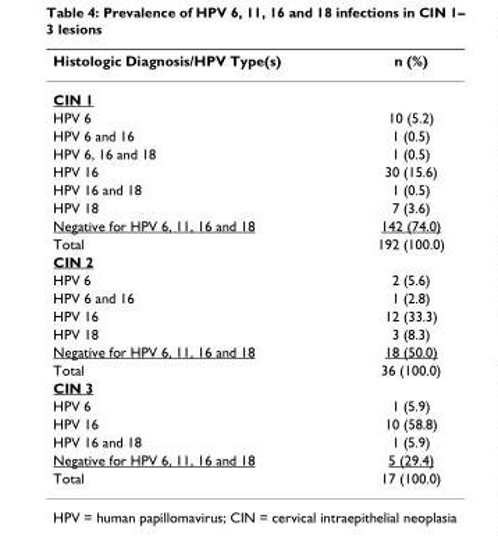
<table><thead><tr><td>Histologic Diagnosis/HPV Type(s)</td><td>n (%)</td></tr></thead><tbody><tr><td colspan="2">CIN 1</td></tr><tr><td>HPV 6</td><td>10 (5.2)</td></tr><tr><td>HPV 6 and 16</td><td>1 (0.5)</td></tr><tr><td>HPV 6, 16 and 18</td><td>1 (0.5)</td></tr><tr><td>HPV 16</td><td>30 (15.6)</td></tr><tr><td>HPV 16 and 18</td><td>1 (0.5)</td></tr><tr><td>HPV 18</td><td>7 (3.6)</td></tr><tr><td>Negative for HPV 6, 11, 16 and 18</td><td>142 (74.0)</td></tr><tr><td>Total</td><td>192 (100.0)</td></tr><tr><td colspan="2">CIN 2</td></tr><tr><td>HPV 6</td><td>2 (5.6)</td></tr><tr><td>HPV 6 and 16</td><td>1 (2.8)</td></tr><tr><td>HPV 16</td><td>12 (33.3)</td></tr><tr><td>HPV 18</td><td>3 (8.3)</td></tr><tr><td>Negative for HPV 6, 11, 16 and 18</td><td>18 (50.0)</td></tr><tr><td>Total</td><td>36 (100.0)</td></tr><tr><td colspan="2">CIN 3</td></tr><tr><td>HPV 6</td><td>1 (5.9)</td></tr><tr><td>HPV 16</td><td>10 (58.8)</td></tr><tr><td>HPV 16 and 18</td><td>1 (5.9)</td></tr><tr><td>Negative for HPV 6, 11, 16 and 18</td><td>5 (29.4)</td></tr><tr><td>Total</td><td>17 (100.0)</td></tr></tbody></table>